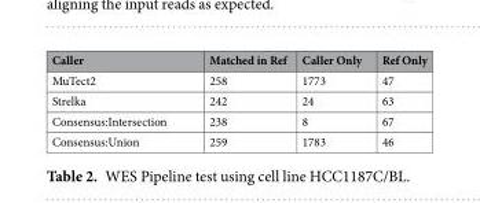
<table><thead><tr><td>Caller</td><td>Matched in Ref</td><td>Caller Only</td><td>Ref Only</td></tr></thead><tbody><tr><td>MuTect2</td><td>258</td><td>1773</td><td>47</td></tr><tr><td>Strelka</td><td>242</td><td>24</td><td>63</td></tr><tr><td>Consensus:Intersection</td><td>238</td><td>8</td><td>67</td></tr><tr><td>Consensus:Union</td><td>259</td><td>1783</td><td>46</td></tr></tbody></table>